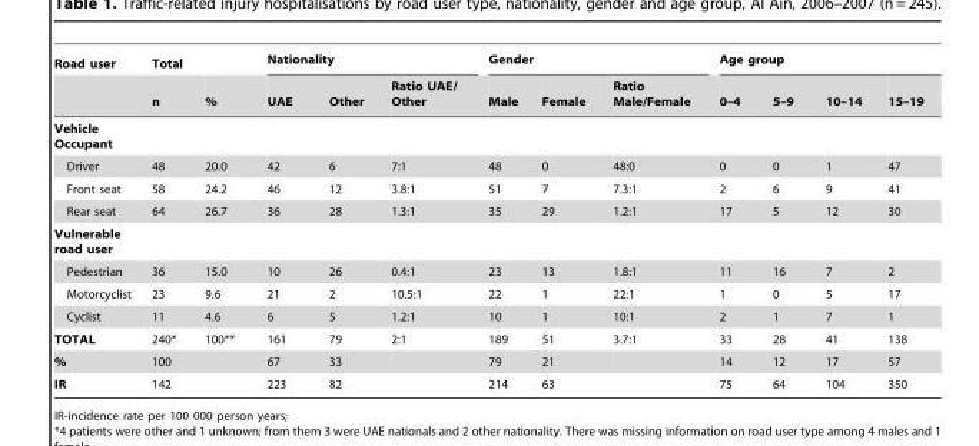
<table><thead><tr><td rowspan="2">Road user</td><td colspan="2">Total</td><td colspan="3">Nationality</td><td colspan="3">Gender</td><td colspan="4">Age group</td></tr><tr><td>n</td><td>%</td><td>UAE</td><td>Other</td><td>Ratio UAE/ Other</td><td>Male</td><td>Female</td><td>Ratio Male/Female</td><td>0–4</td><td>5–9</td><td>10–14</td><td>15–19</td></tr></thead><tbody><tr><td colspan="13">Vehicle Occupant</td></tr><tr><td>Driver</td><td>48</td><td>20.0</td><td>42</td><td>6</td><td>7:1</td><td>48</td><td>0</td><td>48:0</td><td>0</td><td>0</td><td>1</td><td>47</td></tr><tr><td>Front seat</td><td>58</td><td>24.2</td><td>46</td><td>12</td><td>3.8:1</td><td>51</td><td>7</td><td>7.3:1</td><td>2</td><td>6</td><td>9</td><td>41</td></tr><tr><td>Rear seat</td><td>64</td><td>26.7</td><td>36</td><td>28</td><td>1.3:1</td><td>35</td><td>29</td><td>1.2:1</td><td>17</td><td>5</td><td>12</td><td>30</td></tr><tr><td colspan="13">Vulnerable road user</td></tr><tr><td>Pedestrian</td><td>36</td><td>15.0</td><td>10</td><td>26</td><td>0.4:1</td><td>23</td><td>13</td><td>1.8:1</td><td>11</td><td>16</td><td>7</td><td>2</td></tr><tr><td>Motorcyclist</td><td>23</td><td>9.6</td><td>21</td><td>2</td><td>10.5:1</td><td>22</td><td>1</td><td>22:1</td><td>1</td><td>0</td><td>5</td><td>17</td></tr><tr><td>Cyclist</td><td>11</td><td>4.6</td><td>6</td><td>5</td><td>1.2:1</td><td>10</td><td>1</td><td>10:1</td><td>2</td><td>1</td><td>7</td><td>1</td></tr><tr><td>TOTAL</td><td>240*</td><td>100**</td><td>161</td><td>79</td><td>2:1</td><td>189</td><td>51</td><td>3.7:1</td><td>33</td><td>28</td><td>41</td><td>138</td></tr><tr><td>%</td><td colspan="2">100</td><td>67</td><td>33</td><td></td><td>79</td><td>21</td><td></td><td>14</td><td>12</td><td>17</td><td>57</td></tr><tr><td>IR</td><td colspan="2">142</td><td>223</td><td>82</td><td></td><td>214</td><td>63</td><td></td><td>75</td><td>64</td><td>104</td><td>350</td></tr></tbody></table>